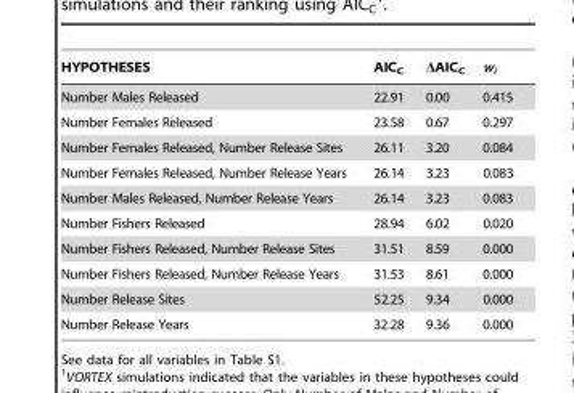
<table><thead><tr><td>HYPOTHESES</td><td>AIC<sub>C</sub></td><td>ΔAIC<sub>C</sub></td><td>w<sub>i</sub></td></tr></thead><tbody><tr><td>Number Males Released</td><td>22.91</td><td>0.00</td><td>0.415</td></tr><tr><td>Number Females Released</td><td>23.58</td><td>0.67</td><td>0.297</td></tr><tr><td>Number Females Released, Number Release Sites</td><td>26.11</td><td>3.20</td><td>0.084</td></tr><tr><td>Number Females Released, Number Release Years</td><td>26.14</td><td>3.23</td><td>0.083</td></tr><tr><td>Number Males Released, Number Release Years</td><td>26.14</td><td>3.23</td><td>0.083</td></tr><tr><td>Number Fishers Released</td><td>28.94</td><td>6.02</td><td>0.020</td></tr><tr><td>Number Fishers Released, Number Release Sites</td><td>31.51</td><td>8.59</td><td>0.000</td></tr><tr><td>Number Fishers Released, Number Release Years</td><td>31.53</td><td>8.61</td><td>0.000</td></tr><tr><td>Number Release Sites</td><td>52.25</td><td>9.34</td><td>0.000</td></tr><tr><td>Number Release Years</td><td>32.28</td><td>9.36</td><td>0.000</td></tr></tbody></table>